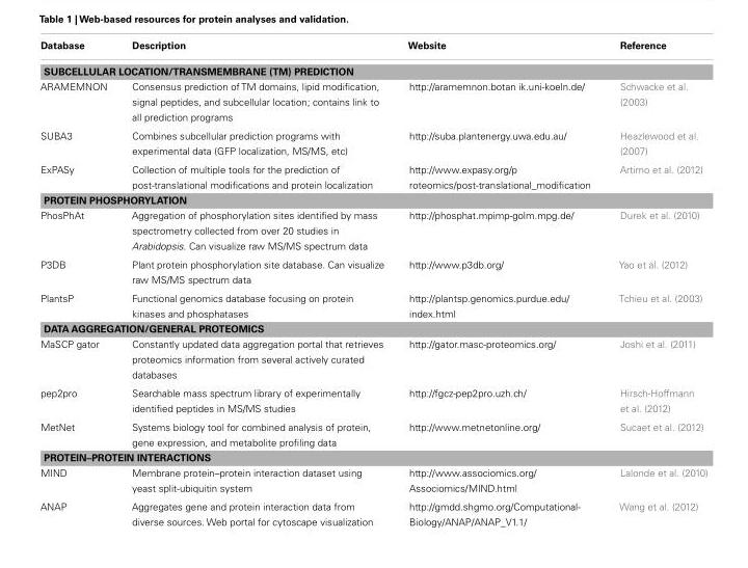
<table><thead><tr><td>Database</td><td>Description</td><td>Website</td><td>Reference</td></tr></thead><tbody><tr><td colspan="4">SUBCELLULAR LOCATION/TRANSMEMBRANE (TM) PREDICTION</td></tr><tr><td>ARAMEMNON</td><td>Consensus prediction of TM domains, lipid modification, signal peptides, and subcellular location; contains link to all prediction programs</td><td>http://aramemnon.botan ik.uni-koeln.de/</td><td>Schwacke et al. (2003)</td></tr><tr><td>SUBA3</td><td>Combines subcellular prediction programs with experimental data (GFP localization, MS/MS, etc)</td><td>http://suba.plantenergy.uwa.edu.au/</td><td>Heazlewood et al. (2007)</td></tr><tr><td>ExPASy</td><td>Collection of multiple tools for the prediction of post-translational modifications and protein localization</td><td>http://www.expasy.org/p roteomics/post-translational_modification</td><td>Artimo et al. (2012)</td></tr><tr><td colspan="4">PROTEIN PHOSPHORYLATION</td></tr><tr><td>PhosPhAt</td><td>Aggregation of phosphorylation sites identified by mass spectrometry collected from over 20 studies in Arabidopsis. Can visualize raw MS/MS spectrum data</td><td>http://phosphat.mpimp-golm.mpg.de/</td><td>Durek et al. (2010)</td></tr><tr><td>P3DB</td><td>Plant protein phosphorylation site database. Can visualize raw MS/MS spectrum data</td><td>http://www.p3db.org/</td><td>Yao et al. (2012)</td></tr><tr><td>PlantsP</td><td>Functional genomics database focusing on protein kinases and phosphatases</td><td>http://plantsp.genomics.purdue.edu/ index.html</td><td>Tchieu et al. (2003)</td></tr><tr><td colspan="4">DATA AGGREGATION/GENERAL PROTEOMICS</td></tr><tr><td>MaSCP gator</td><td>Constantly updated data aggregation portal that retrieves proteomics information from several actively curated databases</td><td>http://gator.masc-proteomics.org/</td><td>Joshi et al. (2011)</td></tr><tr><td>pep2pro</td><td>Searchable mass spectrum library of experimentally identified peptides in MS/MS studies</td><td>http://fgcz-pep2pro.uzh.ch/</td><td>Hirsch-Hoffmann et al. (2012)</td></tr><tr><td>MetNet</td><td>Systems biology tool for combined analysis of protein, gene expression, and metabolite profiling data</td><td>http://www.metnetonline.org/</td><td>Sucaet et al. (2012)</td></tr><tr><td colspan="4">PROTEIN–PROTEIN INTERACTIONS</td></tr><tr><td>MIND</td><td>Membrane protein–protein interaction dataset using yeast split-ubiquitin system</td><td>http://www.associomics.org/ Associomics/MIND.html</td><td>Lalonde et al. (2010)</td></tr><tr><td>ANAP</td><td>Aggregates gene and protein interaction data from diverse sources. Web portal for cytoscape visualization</td><td>http://gmdd.shgmo.org/Computational- Biology/ANAP/ANAP_V1.1/</td><td>Wang et al. (2012)</td></tr></tbody></table>